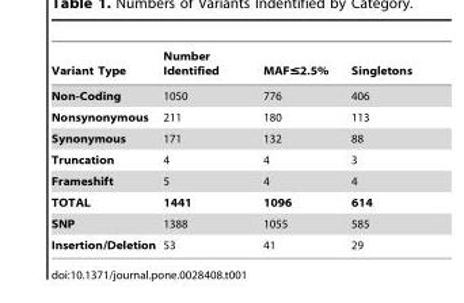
<table><thead><tr><td>Variant Type</td><td>Number Identified</td><td>MAF≤2.5%</td><td>Singletons</td></tr></thead><tbody><tr><td>Non-Coding</td><td>1050</td><td>776</td><td>406</td></tr><tr><td>Nonsynonymous</td><td>211</td><td>180</td><td>113</td></tr><tr><td>Synonymous</td><td>171</td><td>132</td><td>88</td></tr><tr><td>Truncation</td><td>4</td><td>4</td><td>3</td></tr><tr><td>Frameshift</td><td>5</td><td>4</td><td>4</td></tr><tr><td>TOTAL</td><td>1441</td><td>1096</td><td>614</td></tr><tr><td>SNP</td><td>1388</td><td>1055</td><td>585</td></tr><tr><td>Insertion/Deletion</td><td>53</td><td>41</td><td>29</td></tr></tbody></table>